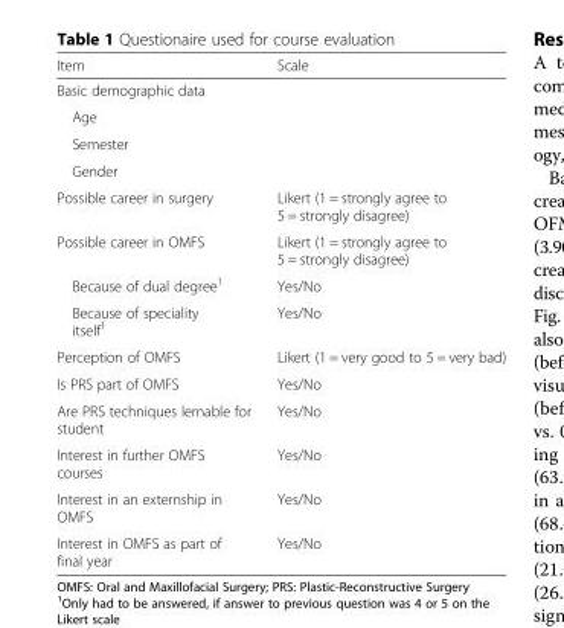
<table><thead><tr><td>Item</td><td>Scale</td></tr></thead><tbody><tr><td colspan="2">Basic demographic data</td></tr><tr><td colspan="2">Age</td></tr><tr><td colspan="2">Semester</td></tr><tr><td colspan="2">Gender</td></tr><tr><td>Possible career in surgery</td><td>Likert (1 = strongly agree to 5 = strongly disagree)</td></tr><tr><td>Possible career in OMFS</td><td>Likert (1 = strongly agree to 5 = strongly disagree)</td></tr><tr><td>Because of dual degree<sup>1</sup></td><td>Yes/No</td></tr><tr><td>Because of speciality itself<sup>1</sup></td><td>Yes/No</td></tr><tr><td>Perception of OMFS</td><td>Likert (1 = very good to 5 = very bad)</td></tr><tr><td>Is PRS part of OMFS</td><td>Yes/No</td></tr><tr><td>Are PRS techniques lernable for student</td><td>Yes/No</td></tr><tr><td>Interest in further OMFS courses</td><td>Yes/No</td></tr><tr><td>Interest in an externship in OMFS</td><td>Yes/No</td></tr><tr><td>Interest in OMFS as part of final year</td><td>Yes/No</td></tr></tbody></table>